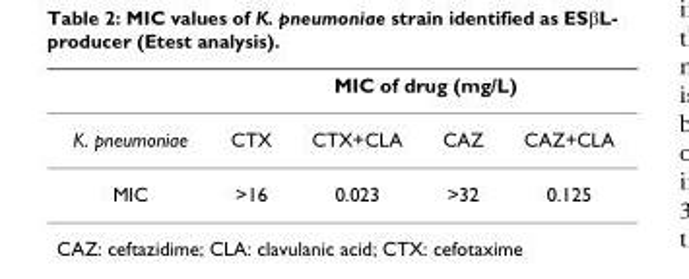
<table><thead><tr><td rowspan="2">K. pneumoniae</td><td colspan="4">MIC of drug (mg/L)</td></tr><tr><td>CTX</td><td>CTX+CLA</td><td>CAZ</td><td>CAZ+CLA</td></tr></thead><tbody><tr><td>MIC</td><td>&gt;16</td><td>0.023</td><td>&gt;32</td><td>0.125</td></tr></tbody></table>